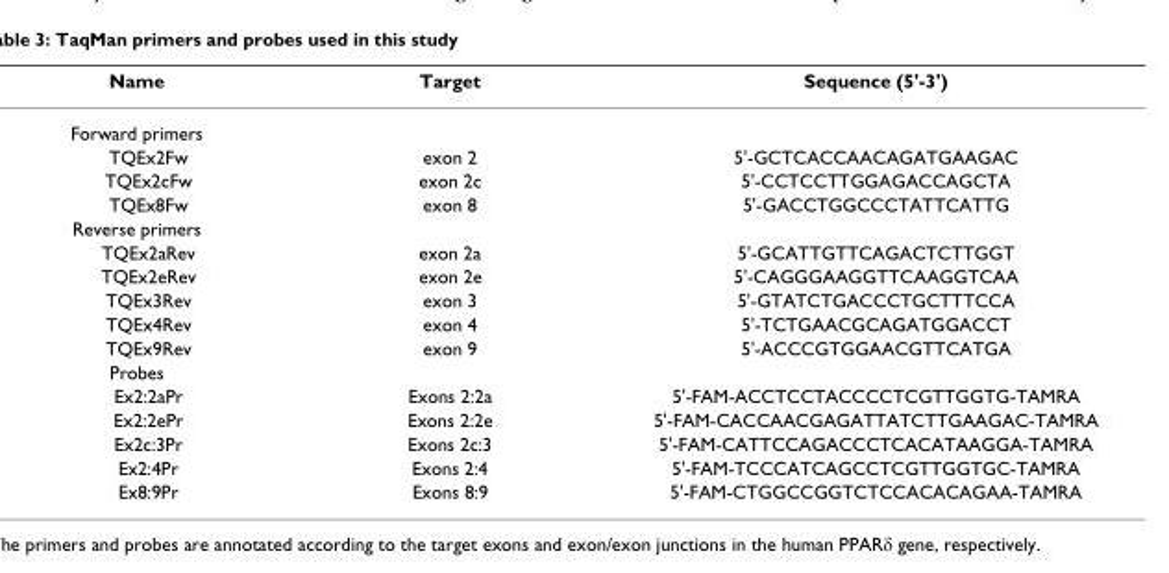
<table><thead><tr><td>Name</td><td>Target</td><td>Sequence (5&#x27;-3&#x27;)</td></tr></thead><tbody><tr><td colspan="3">Forward primers</td></tr><tr><td>TQEx2Fw</td><td>exon 2</td><td>5&#x27;-GCTCACCAACAGATGAAGAC</td></tr><tr><td>TQEx2cFw</td><td>exon 2c</td><td>5&#x27;-CCTCCTTGGAGACCAGCTA</td></tr><tr><td>TQEx8Fw</td><td>exon 8</td><td>5&#x27;-GACCTGGCCCTATTCATTG</td></tr><tr><td colspan="3">Reverse primers</td></tr><tr><td>TQEx2aRev</td><td>exon 2a</td><td>5&#x27;-GCATTGTTCAGACTCTTGGT</td></tr><tr><td>TQEx2eRev</td><td>exon 2e</td><td>5&#x27;-CAGGGAAGGTTCAAGGTCAA</td></tr><tr><td>TQEx3Rev</td><td>exon 3</td><td>5&#x27;-GTATCTGACCCTGCTTTCCA</td></tr><tr><td>TQEx4Rev</td><td>exon 4</td><td>5&#x27;-TCTGAACGCAGATGGACCT</td></tr><tr><td>TQEx9Rev</td><td>exon 9</td><td>5&#x27;-ACCCGTGGAACGTTCATGA</td></tr><tr><td colspan="3">Probes</td></tr><tr><td>Ex2:2aPr</td><td>Exons 2:2a</td><td>5&#x27;-FAM-ACCTCCTACCCCTCGTTGGTG-TAMRA</td></tr><tr><td>Ex2:2ePr</td><td>Exons 2:2e</td><td>5&#x27;-FAM-CACCAACGAGATTATCTTGAAGAC-TAMRA</td></tr><tr><td>Ex2c:3Pr</td><td>Exons 2c:3</td><td>5&#x27;-FAM-CATTCCAGACCCTCACATAAGGA-TAMRA</td></tr><tr><td>Ex2:4Pr</td><td>Exons 2:4</td><td>5&#x27;-FAM-TCCCATCAGCCTCGTTGGTGC-TAMRA</td></tr><tr><td>Ex8:9Pr</td><td>Exons 8:9</td><td>5&#x27;-FAM-CTGGCCGGTCTCCACACAGAA-TAMRA</td></tr></tbody></table>